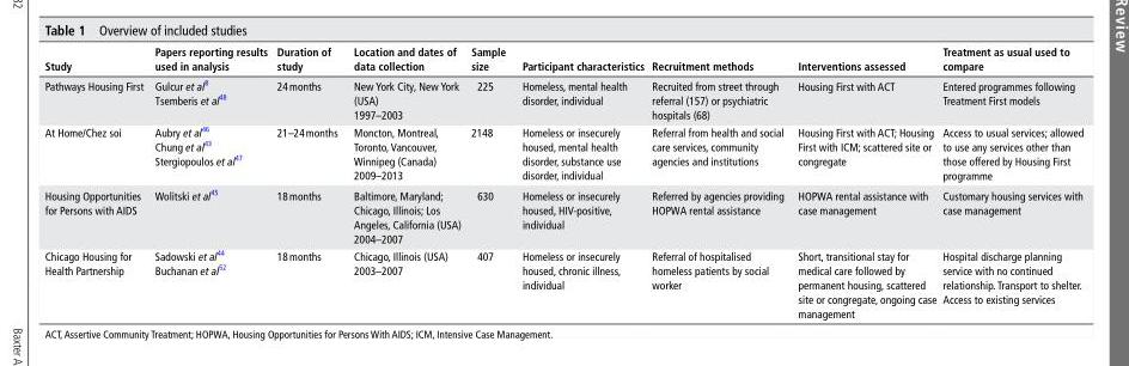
<table><thead><tr><td>study</td><td>Papers reporting results used in analysis</td><td>duration of study</td><td>location and dates of data collection</td><td>sample size</td><td>Participant characteristics</td><td>recruitment methods</td><td>Interventions assessed</td><td>Treatment as usual used to compare</td></tr></thead><tbody><tr><td>Pathways Housing First</td><td>Gulcur et al8 Tsemberis et al48</td><td>24 months</td><td>New York City, New York (USA) 1997–2003</td><td>225</td><td>Homeless, mental health disorder, individual</td><td>Recruited from street through referral (157) or psychiatric hospitals (68)</td><td>Housing First with ACT</td><td>Entered programmes following Treatment First models</td></tr><tr><td>At Home/Chez soi</td><td>Aubry et al46 Chung et al43 Stergiopoulos et al47</td><td>21–24 months</td><td>Moncton, Montreal, Toronto, Vancouver, Winnipeg (Canada) 2009–2013</td><td>2148</td><td>Homeless or insecurely housed, mental health disorder, substance use disorder, individual</td><td>Referral from health and social care services, community agencies and institutions</td><td>Housing First with ACT; Housing First with ICM; scattered site or congregate</td><td>Access to usual services; allowed to use any services other than those offered by Housing First programme</td></tr><tr><td>Housing Opportunities for Persons with AIDS</td><td>Wolitski et al45</td><td>18 months</td><td>Baltimore, Maryland; Chicago, Illinois; Los Angeles, California (USA) 2004–2007</td><td>630</td><td>Homeless or insecurely housed, HIV-positive, individual</td><td>Referred by agencies providing HOPWA rental assistance</td><td>HOPWA rental assistance with case management</td><td>Customary housing services with case management</td></tr><tr><td>Chicago Housing for Health Partnership</td><td>Sadowski et al44 Buchanan et al52</td><td>18 months</td><td>Chicago, Illinois (USA) 2003–2007</td><td>407</td><td>Homeless or insecurely housed, chronic illness, individual</td><td>Referral of hospitalised homeless patients by social worker</td><td>Short, transitional stay for medical care followed by permanent housing, scattered site or congregate, ongoing case management</td><td>Hospital discharge planning service with no continued relationship. Transport to shelter. Access to existing services</td></tr></tbody></table>